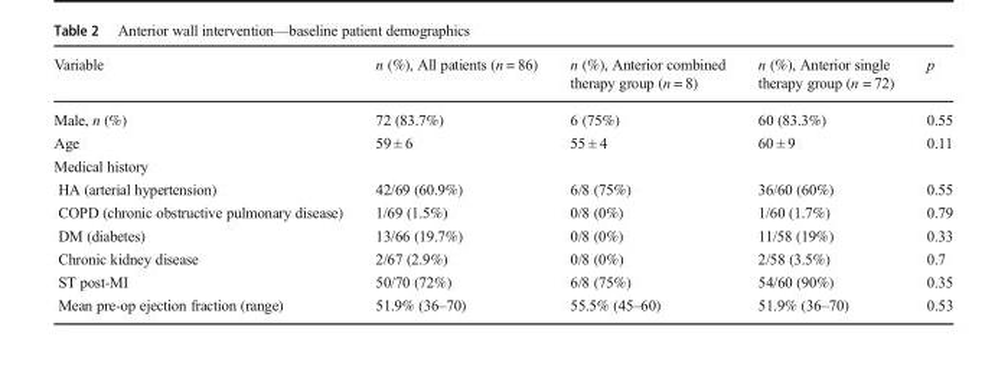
<table><thead><tr><td>Variable</td><td>n (%), All patients (n = 86)</td><td>n (%), Anterior combined therapy group (n = 8)</td><td>n (%), Anterior single therapy group (n = 72)</td><td>p</td></tr></thead><tbody><tr><td>Male, n (%)</td><td>72 (83.7%)</td><td>6 (75%)</td><td>60 (83.3%)</td><td>0.55</td></tr><tr><td>Age</td><td>59 ± 6</td><td>55 ± 4</td><td>60 ± 9</td><td>0.11</td></tr><tr><td colspan="5">Medical history</td></tr><tr><td>HA (arterial hypertension)</td><td>42/69 (60.9%)</td><td>6/8 (75%)</td><td>36/60 (60%)</td><td>0.55</td></tr><tr><td>COPD (chronic obstructive pulmonary disease)</td><td>1/69 (1.5%)</td><td>0/8 (0%)</td><td>1/60 (1.7%)</td><td>0.79</td></tr><tr><td>DM (diabetes)</td><td>13/66 (19.7%)</td><td>0/8 (0%)</td><td>11/58 (19%)</td><td>0.33</td></tr><tr><td>Chronic kidney disease</td><td>2/67 (2.9%)</td><td>0/8 (0%)</td><td>2/58 (3.5%)</td><td>0.7</td></tr><tr><td>ST post-MI</td><td>50/70 (72%)</td><td>6/8 (75%)</td><td>54/60 (90%)</td><td>0.35</td></tr><tr><td>Mean pre-op ejection fraction (range)</td><td>51.9% (36–70)</td><td>55.5% (45–60)</td><td>51.9% (36–70)</td><td>0.53</td></tr></tbody></table>